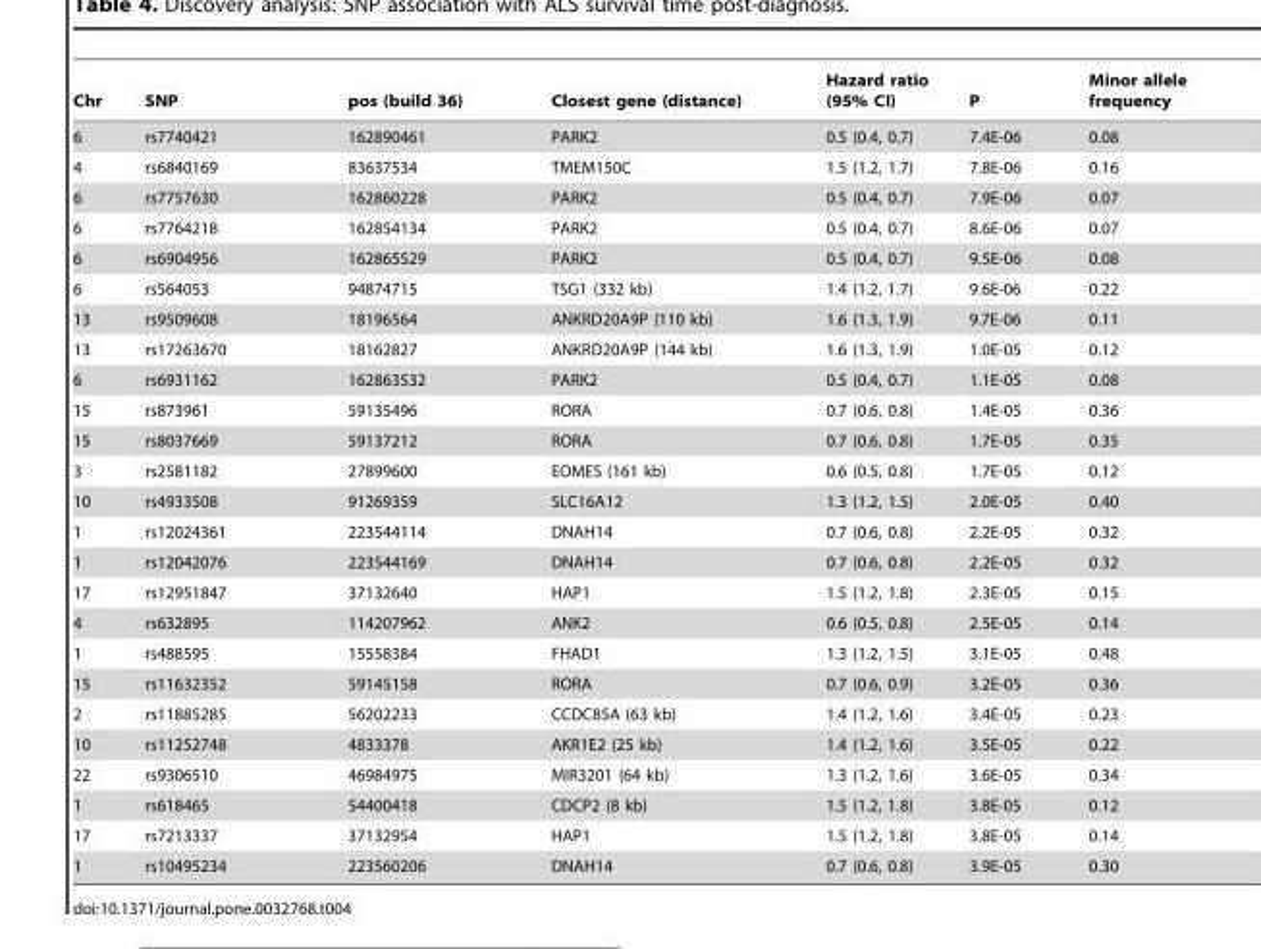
<table><thead><tr><td>Chr</td><td>SNP</td><td>pos (build 36)</td><td>Closest gene (distance)</td><td>Hazard ratio (95% CI)</td><td>P</td><td>Minor allele frequency</td></tr></thead><tbody><tr><td>6</td><td>rs7740421</td><td>162890461</td><td>PARK2</td><td>0.5 (0.4, 0.7)</td><td>7.4E-06</td><td>0.08</td></tr><tr><td>4</td><td>rs6840169</td><td>83637534</td><td>TMEM150C</td><td>1.5 (1.2, 1.7)</td><td>7.8E-06</td><td>0.16</td></tr><tr><td>6</td><td>rs7757630</td><td>162860228</td><td>PARK2</td><td>0.5 (0.4, 0.7)</td><td>7.9E-06</td><td>0.07</td></tr><tr><td>6</td><td>rs7764218</td><td>162854134</td><td>PARK2</td><td>0.5 (0.4, 0.7)</td><td>8.6E-06</td><td>0.07</td></tr><tr><td>6</td><td>rs6904956</td><td>162865529</td><td>PARK2</td><td>0.5 (0.4, 0.7)</td><td>9.5E-06</td><td>0.08</td></tr><tr><td>6</td><td>rs564053</td><td>94874715</td><td>TSG1 (332 kb)</td><td>1.4 (1.2, 1.7)</td><td>9.6E-06</td><td>0.22</td></tr><tr><td>13</td><td>rs9509608</td><td>18196564</td><td>ANKRD20A9P (110 kb)</td><td>1.6 (1.3, 1.9)</td><td>9.7E-06</td><td>0.11</td></tr><tr><td>13</td><td>rs17263670</td><td>18162827</td><td>ANKRD20A9P (144 kb)</td><td>1.6 (1.3, 1.9)</td><td>1.0E-05</td><td>0.12</td></tr><tr><td>6</td><td>rs6931162</td><td>162863532</td><td>PARK2</td><td>0.5 (0.4, 0.7)</td><td>1.1E-05</td><td>0.08</td></tr><tr><td>15</td><td>rs873961</td><td>59135496</td><td>RORA</td><td>0.7 (0.6, 0.8)</td><td>1.4E-05</td><td>0.36</td></tr><tr><td>15</td><td>rs8037669</td><td>59137212</td><td>RORA</td><td>0.7 (0.6, 0.8)</td><td>1.7E-05</td><td>0.35</td></tr><tr><td>3</td><td>rs2581182</td><td>27899600</td><td>EOMES (161 kb)</td><td>0.6 (0.5, 0.8)</td><td>1.7E-05</td><td>0.12</td></tr><tr><td>10</td><td>rs4933508</td><td>91269359</td><td>SLC16A12</td><td>1.3 (1.2, 1.5)</td><td>2.0E-05</td><td>0.40</td></tr><tr><td>1</td><td>rs12024361</td><td>223544114</td><td>DNAH14</td><td>0.7 (0.6, 0.8)</td><td>2.2E-05</td><td>0.32</td></tr><tr><td>1</td><td>rs12042076</td><td>223544169</td><td>DNAH14</td><td>0.7 (0.6, 0.8)</td><td>2.2E-05</td><td>0.32</td></tr><tr><td>17</td><td>rs12951847</td><td>37132640</td><td>HAP1</td><td>1.5 (1.2, 1.8)</td><td>2.3E-05</td><td>0.15</td></tr><tr><td>4</td><td>rs632895</td><td>114207962</td><td>ANK2</td><td>0.6 (0.5, 0.8)</td><td>2.5E-05</td><td>0.14</td></tr><tr><td>1</td><td>rs488595</td><td>15558384</td><td>FHAD1</td><td>1.3 (1.2, 1.5)</td><td>3.1E-05</td><td>0.48</td></tr><tr><td>15</td><td>rs11632352</td><td>59145158</td><td>RORA</td><td>0.7 (0.6, 0.9)</td><td>3.2E-05</td><td>0.36</td></tr><tr><td>2</td><td>rs11885285</td><td>56202233</td><td>CCDC85A (63 kb)</td><td>1.4 (1.2, 1.6)</td><td>3.4E-05</td><td>0.23</td></tr><tr><td>10</td><td>rs11252748</td><td>4833378</td><td>AKR1E2 (25 kb)</td><td>1.4 (1.2, 1.6)</td><td>3.5E-05</td><td>0.22</td></tr><tr><td>22</td><td>rs9306510</td><td>46984975</td><td>MIR3201 (64 kb)</td><td>1.3 (1.2, 1.6)</td><td>3.6E-05</td><td>0.34</td></tr><tr><td>1</td><td>rs618465</td><td>54400418</td><td>CDCP2 (8 kb)</td><td>1.5 (1.2, 1.8)</td><td>3.8E-05</td><td>0.12</td></tr><tr><td>17</td><td>rs7213337</td><td>37132954</td><td>HAP1</td><td>1.5 (1.2, 1.8)</td><td>3.8E-05</td><td>0.14</td></tr><tr><td>1</td><td>rs10495234</td><td>223560206</td><td>DNAH14</td><td>0.7 (0.6, 0.8)</td><td>3.9E-05</td><td>0.30</td></tr></tbody></table>